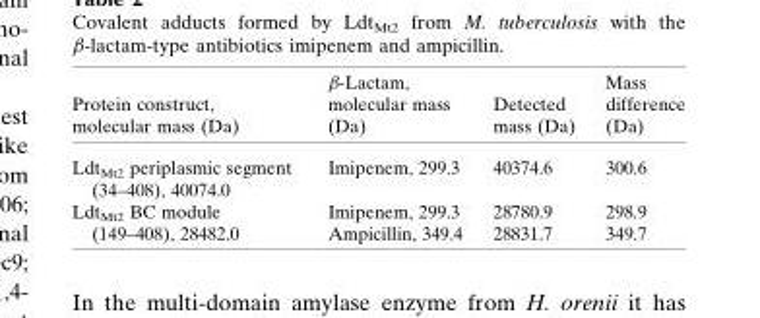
<table><thead><tr><td>Protein construct, molecular mass (Da)</td><td>�-Lactam, molecular mass (Da)</td><td>Detected mass (Da)</td><td>Mass difference (Da)</td></tr></thead><tbody><tr><td>LdtMt2 periplasmic segment (34–408), 40074.0</td><td>Imipenem, 299.3</td><td>40374.6</td><td>300.6</td></tr><tr><td rowspan="2">LdtMt2 BC module (149–408), 28482.0</td><td>Imipenem, 299.3</td><td>28780.9</td><td>298.9</td></tr><tr><td>Ampicillin, 349.4</td><td>28831.7</td><td>349.7</td></tr></tbody></table>